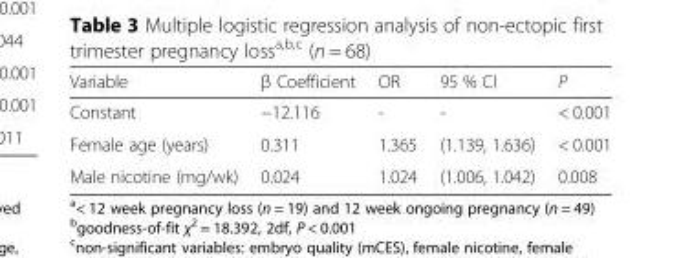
<table><thead><tr><td>Variable</td><td>β Coefficient</td><td>OR</td><td>95 % CI</td><td>P</td></tr></thead><tbody><tr><td>Constant</td><td>−12.116</td><td>-</td><td>-</td><td>&lt; 0.001</td></tr><tr><td>Female age (years)</td><td>0.311</td><td>1.365</td><td>(1.139, 1.636)</td><td>&lt; 0.001</td></tr><tr><td>Male nicotine (mg/wk)</td><td>0.024</td><td>1.024</td><td>(1.006, 1.042)</td><td>0.008</td></tr></tbody></table>